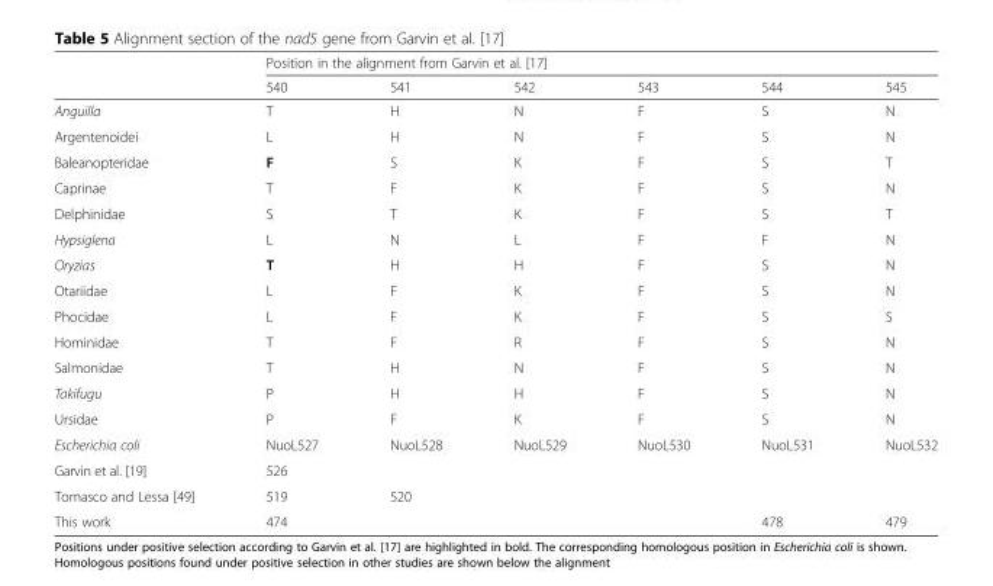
<table><thead><tr><td rowspan="2"></td><td colspan="6">Position in the alignment from Garvin et al. [17]</td></tr><tr><td>540</td><td>541</td><td>542</td><td>543</td><td>544</td><td>545</td></tr></thead><tbody><tr><td>Anguilla</td><td>T</td><td>H</td><td>N</td><td>F</td><td>S</td><td>N</td></tr><tr><td>Argentenoidei</td><td>L</td><td>H</td><td>N</td><td>F</td><td>S</td><td>N</td></tr><tr><td>Baleanopteridae</td><td>F</td><td>S</td><td>K</td><td>F</td><td>S</td><td>T</td></tr><tr><td>Caprinae</td><td>T</td><td>F</td><td>K</td><td>F</td><td>S</td><td>N</td></tr><tr><td>Delphinidae</td><td>S</td><td>T</td><td>K</td><td>F</td><td>S</td><td>T</td></tr><tr><td>Hypsiglena</td><td>L</td><td>N</td><td>L</td><td>F</td><td>F</td><td>N</td></tr><tr><td>Oryzias</td><td>T</td><td>H</td><td>H</td><td>F</td><td>S</td><td>N</td></tr><tr><td>Otariidae</td><td>L</td><td>F</td><td>K</td><td>F</td><td>S</td><td>N</td></tr><tr><td>Phocidae</td><td>L</td><td>F</td><td>K</td><td>F</td><td>S</td><td>S</td></tr><tr><td>Hominidae</td><td>T</td><td>F</td><td>R</td><td>F</td><td>S</td><td>N</td></tr><tr><td>Salmonidae</td><td>T</td><td>H</td><td>N</td><td>F</td><td>S</td><td>N</td></tr><tr><td>Takifugu</td><td>P</td><td>H</td><td>H</td><td>F</td><td>S</td><td>N</td></tr><tr><td>Ursidae</td><td>P</td><td>F</td><td>K</td><td>F</td><td>S</td><td>N</td></tr><tr><td>Escherichia coli</td><td>NuoL527</td><td>NuoL528</td><td>NuoL529</td><td>NuoL530</td><td>NuoL531</td><td>NuoL532</td></tr><tr><td>Garvin et al. [19]</td><td>526</td><td></td><td></td><td></td><td></td><td></td></tr><tr><td>Tomasco and Lessa [49]</td><td>519</td><td>520</td><td></td><td></td><td></td><td></td></tr><tr><td>This work</td><td>474</td><td></td><td></td><td></td><td>478</td><td>479</td></tr></tbody></table>